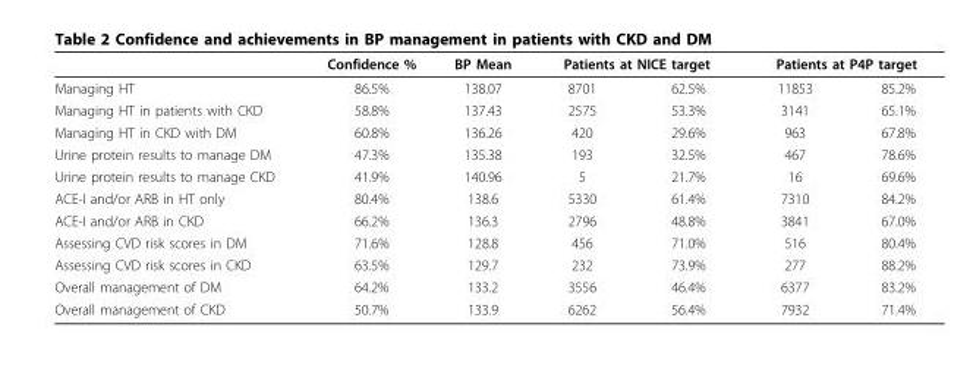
<table><thead><tr><td rowspan="2">Managing HT</td><td rowspan="2">Confidence % 86.5%</td><td rowspan="2">BP Mean 138.07</td><td colspan="2">Patients at NICE target</td><td colspan="2">Patients at P4P target</td></tr><tr><td>8701</td><td>62.5%</td><td>11853</td><td>85.2%</td></tr></thead><tbody><tr><td>Managing HT in patients with CKD</td><td>58.8%</td><td>137.43</td><td>2575</td><td>53.3%</td><td>3141</td><td>65.1%</td></tr><tr><td>Managing HT in CKD with DM</td><td>60.8%</td><td>136.26</td><td>420</td><td>29.6%</td><td>963</td><td>67.8%</td></tr><tr><td>Urine protein results to manage DM</td><td>47.3%</td><td>135.38</td><td>193</td><td>32.5%</td><td>467</td><td>78.6%</td></tr><tr><td>Urine protein results to manage CKD</td><td>41.9%</td><td>140.96</td><td>5</td><td>21.7%</td><td>16</td><td>69.6%</td></tr><tr><td>ACE-I and/or ARB in HT only</td><td>80.4%</td><td>138.6</td><td>5330</td><td>61.4%</td><td>7310</td><td>84.2%</td></tr><tr><td>ACE-I and/or ARB in CKD</td><td>66.2%</td><td>136.3</td><td>2796</td><td>48.8%</td><td>3841</td><td>67.0%</td></tr><tr><td>Assessing CVD risk scores in DM</td><td>71.6%</td><td>128.8</td><td>456</td><td>71.0%</td><td>516</td><td>80.4%</td></tr><tr><td>Assessing CVD risk scores in CKD</td><td>63.5%</td><td>129.7</td><td>232</td><td>73.9%</td><td>277</td><td>88.2%</td></tr><tr><td>Overall management of DM</td><td>64.2%</td><td>133.2</td><td>3556</td><td>46.4%</td><td>6377</td><td>83.2%</td></tr><tr><td>Overall management of CKD</td><td>50.7%</td><td>133.9</td><td>6262</td><td>56.4%</td><td>7932</td><td>71.4%</td></tr></tbody></table>